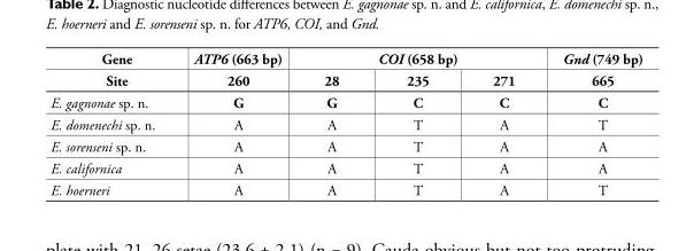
<table><thead><tr><td rowspan="2">Gene Site</td><td rowspan="2">ATP6 (663 bp) 260</td><td colspan="3">COI (658 bp)</td><td rowspan="2">Gnd (749 bp) 665</td></tr><tr><td>28</td><td>235</td><td>271</td></tr></thead><tbody><tr><td>E. gagnonae sp. n.</td><td>G</td><td>G</td><td>C</td><td>C</td><td>C</td></tr><tr><td>E. domenechi sp. n.</td><td>A</td><td>A</td><td>T</td><td>A</td><td>T</td></tr><tr><td>E. sorenseni sp. n.</td><td>A</td><td>A</td><td>T</td><td>A</td><td>A</td></tr><tr><td>E. californica</td><td>A</td><td>A</td><td>T</td><td>A</td><td>A</td></tr><tr><td>E. hoerneri</td><td>A</td><td>A</td><td>T</td><td>A</td><td>T</td></tr></tbody></table>